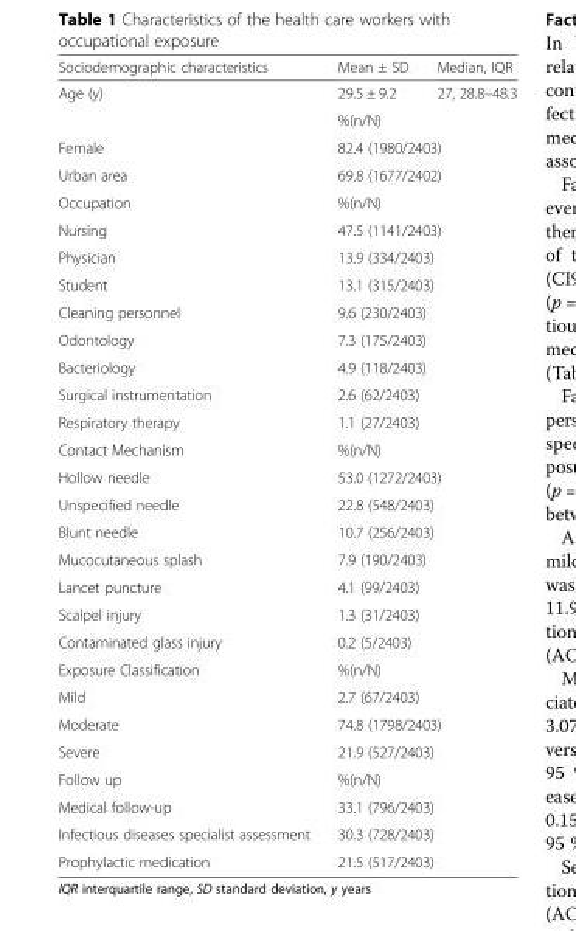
<table><thead><tr><td>Sociodemographic characteristics</td><td>Mean ± SD</td><td>Median, IQR</td></tr></thead><tbody><tr><td rowspan="2">Age (y)</td><td>29.5 ± 9.2</td><td>27, 28.8–48.3</td></tr><tr><td colspan="2">%(n/N)</td></tr><tr><td>Female</td><td colspan="2">82.4 (1980/2403)</td></tr><tr><td>Urban area</td><td colspan="2">69.8 (1677/2402)</td></tr><tr><td>Occupation</td><td colspan="2">%(n/N)</td></tr><tr><td>Nursing</td><td colspan="2">47.5 (1141/2403)</td></tr><tr><td>Physician</td><td colspan="2">13.9 (334/2403)</td></tr><tr><td>Student</td><td colspan="2">13.1 (315/2403)</td></tr><tr><td>Cleaning personnel</td><td colspan="2">9.6 (230/2403)</td></tr><tr><td>Odontology</td><td colspan="2">7.3 (175/2403)</td></tr><tr><td>Bacteriology</td><td colspan="2">4.9 (118/2403)</td></tr><tr><td>Surgical instrumentation</td><td colspan="2">2.6 (62/2403)</td></tr><tr><td>Respiratory therapy</td><td colspan="2">1.1 (27/2403)</td></tr><tr><td>Contact Mechanism</td><td colspan="2">%(n/N)</td></tr><tr><td>Hollow needle</td><td colspan="2">53.0 (1272/2403)</td></tr><tr><td>Unspecified needle</td><td colspan="2">22.8 (548/2403)</td></tr><tr><td>Blunt needle</td><td colspan="2">10.7 (256/2403)</td></tr><tr><td>Mucocutaneous splash</td><td colspan="2">7.9 (190/2403)</td></tr><tr><td>Lancet puncture</td><td colspan="2">4.1 (99/2403)</td></tr><tr><td>Scalpel injury</td><td colspan="2">1.3 (31/2403)</td></tr><tr><td>Contaminated glass injury</td><td colspan="2">0.2 (5/2403)</td></tr><tr><td>Exposure Classification</td><td colspan="2">%(n/N)</td></tr><tr><td>Mild</td><td colspan="2">2.7 (67/2403)</td></tr><tr><td>Moderate</td><td colspan="2">74.8 (1798/2403)</td></tr><tr><td>Severe</td><td colspan="2">21.9 (527/2403)</td></tr><tr><td>Follow up</td><td colspan="2">%(n/N)</td></tr><tr><td>Medical follow-up</td><td colspan="2">33.1 (796/2403)</td></tr><tr><td>Infectious diseases specialist assessment</td><td colspan="2">30.3 (728/2403)</td></tr><tr><td>Prophylactic medication</td><td colspan="2">21.5 (517/2403)</td></tr></tbody></table>